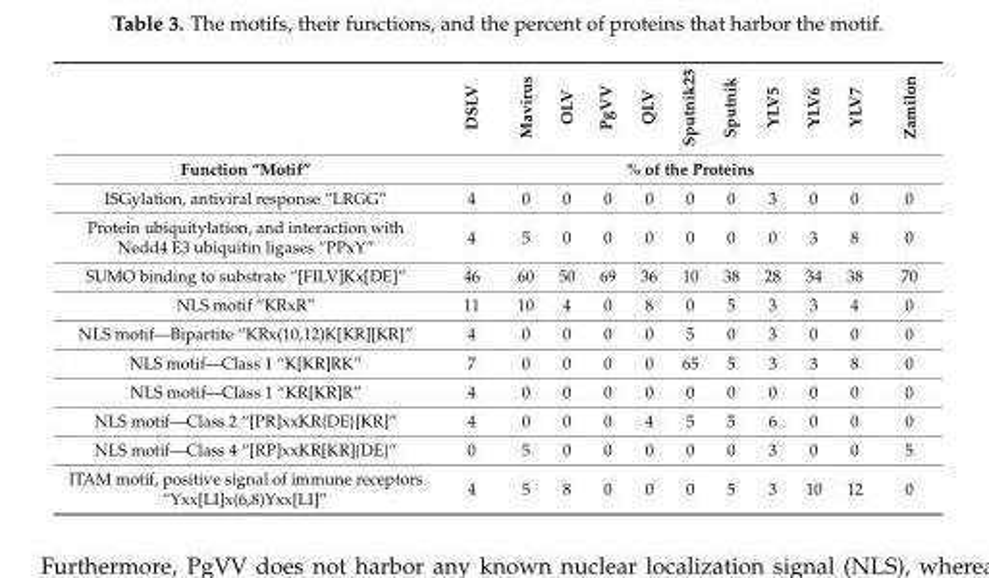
<table><thead><tr><td></td><td>DSLV</td><td>Mavirus</td><td>OLV</td><td>PgVV</td><td>QLV</td><td>Sputnik23</td><td>Sputnik</td><td>YLV5</td><td>YLV6</td><td>YLV7</td><td>Zamilon</td></tr></thead><tbody><tr><td>Function “Motif”</td><td colspan="11">% of the Proteins</td></tr><tr><td>ISGylation, antiviral response “LRGG”</td><td>4</td><td>0</td><td>0</td><td>0</td><td>0</td><td>0</td><td>0</td><td>3</td><td>0</td><td>0</td><td>0</td></tr><tr><td>Protein ubiquitylation, and interaction with Nedd4 E3 ubiquitin ligases “PPxY”</td><td>4</td><td>5</td><td>0</td><td>0</td><td>0</td><td>0</td><td>0</td><td>0</td><td>3</td><td>8</td><td>0</td></tr><tr><td>SUMO binding to substrate “[FILV]Kx[DE]”</td><td>46</td><td>60</td><td>50</td><td>69</td><td>36</td><td>10</td><td>38</td><td>28</td><td>34</td><td>38</td><td>70</td></tr><tr><td>NLS motif “KRxR”</td><td>11</td><td>10</td><td>4</td><td>0</td><td>8</td><td>0</td><td>5</td><td>3</td><td>3</td><td>4</td><td>0</td></tr><tr><td>NLS motif—Bipartite “KRx(10,12)K[KR][KR]”</td><td>4</td><td>0</td><td>0</td><td>0</td><td>0</td><td>5</td><td>0</td><td>3</td><td>0</td><td>0</td><td>0</td></tr><tr><td>NLS motif—Class 1 “K[KR]RK”</td><td>7</td><td>0</td><td>0</td><td>0</td><td>0</td><td>65</td><td>5</td><td>3</td><td>3</td><td>8</td><td>0</td></tr><tr><td>NLS motif—Class 1 “KR[KR]R”</td><td>4</td><td>0</td><td>0</td><td>0</td><td>0</td><td>0</td><td>0</td><td>0</td><td>0</td><td>0</td><td>0</td></tr><tr><td>NLS motif—Class 2 “[PR]xxKR{DE}[KR]”</td><td>4</td><td>0</td><td>0</td><td>0</td><td>4</td><td>5</td><td>5</td><td>6</td><td>0</td><td>0</td><td>0</td></tr><tr><td>NLS motif—Class 4 “[RP]xxKR[KR]{DE}”</td><td>0</td><td>5</td><td>0</td><td>0</td><td>0</td><td>0</td><td>0</td><td>3</td><td>0</td><td>0</td><td>5</td></tr><tr><td>ITAM motif, positive signal of immune receptors “Yxx[LI]x(6,8)Yxx[LI]”</td><td>4</td><td>5</td><td>8</td><td>0</td><td>0</td><td>0</td><td>5</td><td>3</td><td>10</td><td>12</td><td>0</td></tr></tbody></table>